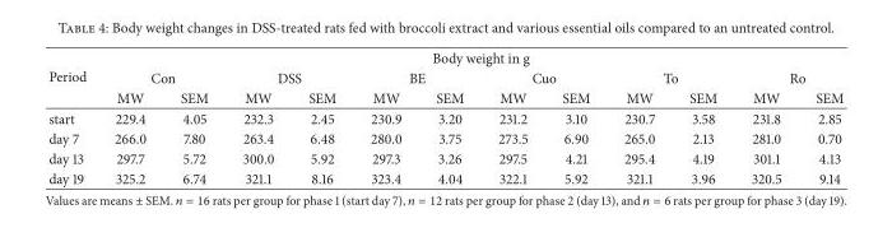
<table><thead><tr><td rowspan="3">Period</td><td colspan="12">Body weight in g</td></tr><tr><td colspan="2">Con</td><td colspan="2">DSS</td><td colspan="2">BE</td><td colspan="2">Cuo</td><td colspan="2">To</td><td colspan="2">Ro</td></tr><tr><td>MW</td><td>SEM</td><td>MW</td><td>SEM</td><td>MW</td><td>SEM</td><td>MW</td><td>SEM</td><td>MW</td><td>SEM</td><td>MW</td><td>SEM</td></tr></thead><tbody><tr><td>start</td><td>229.4</td><td>4.05</td><td>232.3</td><td>2.45</td><td>230.9</td><td>3.20</td><td>231.2</td><td>3.10</td><td>230.7</td><td>3.58</td><td>231.8</td><td>2.85</td></tr><tr><td>day 7</td><td>266.0</td><td>7.80</td><td>263.4</td><td>6.48</td><td>280.0</td><td>3.75</td><td>273.5</td><td>6.90</td><td>265.0</td><td>2.13</td><td>281.0</td><td>0.70</td></tr><tr><td>day 13</td><td>297.7</td><td>5.72</td><td>300.0</td><td>5.92</td><td>297.3</td><td>3.26</td><td>297.5</td><td>4.21</td><td>295.4</td><td>4.19</td><td>301.1</td><td>4.13</td></tr><tr><td>day 19</td><td>325.2</td><td>6.74</td><td>321.1</td><td>8.16</td><td>323.4</td><td>4.04</td><td>322.1</td><td>5.92</td><td>321.1</td><td>3.96</td><td>320.5</td><td>9.14</td></tr></tbody></table>